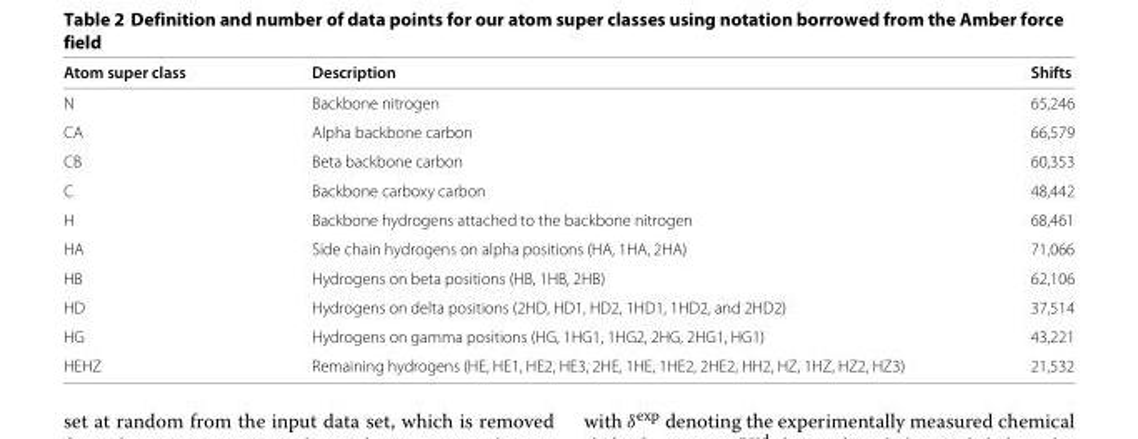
<table><thead><tr><td>Atom super class</td><td>Description</td><td>Shifts</td></tr></thead><tbody><tr><td>N</td><td>Backbone nitrogen</td><td>65,246</td></tr><tr><td>CA</td><td>Alpha backbone carbon</td><td>66,579</td></tr><tr><td>CB</td><td>Beta backbone carbon</td><td>60,353</td></tr><tr><td>C</td><td>Backbone carboxy carbon</td><td>48,442</td></tr><tr><td>H</td><td>Backbone hydrogens attached to the backbone nitrogen</td><td>68,461</td></tr><tr><td>HA</td><td>Side chain hydrogens on alpha positions (HA, 1HA, 2HA)</td><td>71,066</td></tr><tr><td>HB</td><td>Hydrogens on beta positions (HB, 1HB, 2HB)</td><td>62,106</td></tr><tr><td>HD</td><td>Hydrogens on delta positions (2HD, HD1, HD2, 1HD1, 1HD2, and 2HD2)</td><td>37,514</td></tr><tr><td>HG</td><td>Hydrogens on gamma positions (HG, 1HG1, 1HG2, 2HG, 2HG1, HG1)</td><td>43,221</td></tr><tr><td>HEHZ</td><td>Remaining hydrogens (HE, HE1, HE2, HE3, 2HE, 1HE, 1HE2, 2HE2, HH2, HZ, 1HZ, HZ2, HZ3)</td><td>21,532</td></tr></tbody></table>